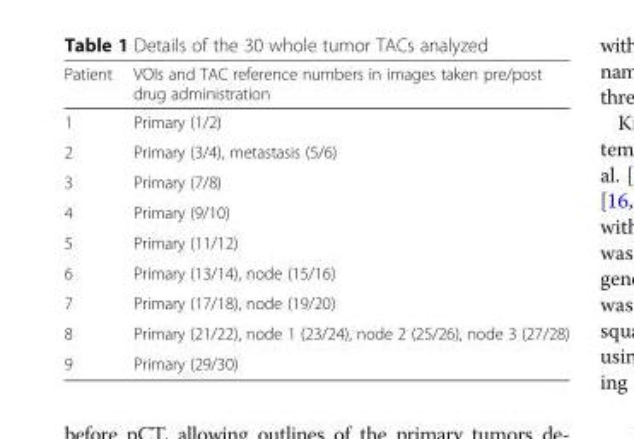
<table><thead><tr><td>Patient</td><td>VOIs and TAC reference numbers in images taken pre/post drug administration</td></tr></thead><tbody><tr><td>1</td><td>Primary (1/2)</td></tr><tr><td>2</td><td>Primary (3/4), metastasis (5/6)</td></tr><tr><td>3</td><td>Primary (7/8)</td></tr><tr><td>4</td><td>Primary (9/10)</td></tr><tr><td>5</td><td>Primary (11/12)</td></tr><tr><td>6</td><td>Primary (13/14), node (15/16)</td></tr><tr><td>7</td><td>Primary (17/18), node (19/20)</td></tr><tr><td>8</td><td>Primary (21/22), node 1 (23/24), node 2 (25/26), node 3 (27/28)</td></tr><tr><td>9</td><td>Primary (29/30)</td></tr></tbody></table>